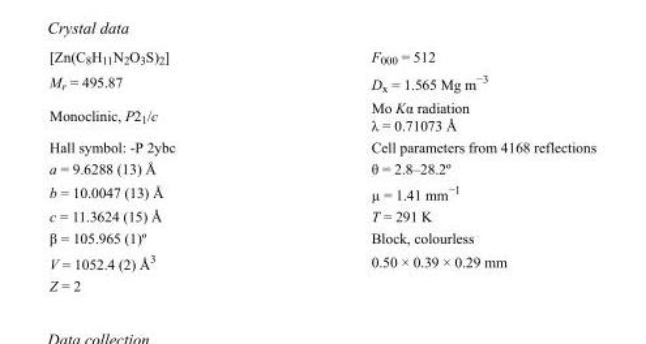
<table><tbody><tr><td>[Zn(C<sub>8</sub>H<sub>11</sub>N<sub>2</sub>O<sub>3</sub>S)<sub>2</sub>]</td><td>F000 = 512</td></tr><tr><td>M<sub>r</sub> = 495.87</td><td>D<sub>x</sub> = 1.565 Mg m<sup>−3</sup></td></tr><tr><td>Monoclinic, P2<sub>1</sub>/c</td><td>Mo Kα radiation λ = 0.71073 Å</td></tr><tr><td>Hall symbol: -P 2ybc</td><td>Cell parameters from 4168 reflections</td></tr><tr><td>a = 9.6288 (13) Å</td><td>θ = 2.8–28.2º</td></tr><tr><td>b = 10.0047 (13) Å</td><td>µ = 1.41 mm<sup>−1</sup></td></tr><tr><td>c = 11.3624 (15) Å</td><td>T = 291 K</td></tr><tr><td>β = 105.965 (1)º</td><td>Block, colourless</td></tr><tr><td>V = 1052.4 (2) Å<sup>3</sup></td><td>0.50 × 0.39 × 0.29 mm</td></tr><tr><td>Z = 2</td><td></td></tr></tbody></table>